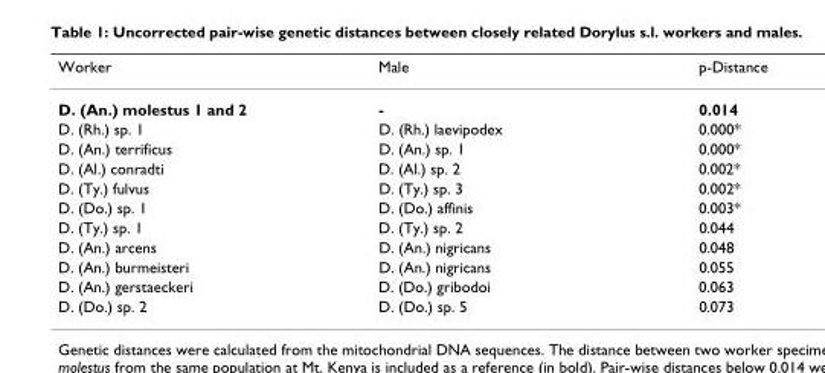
<table><thead><tr><td>Worker</td><td>Male</td><td>p-Distance</td></tr></thead><tbody><tr><td>D. (An.) molestus 1 and 2</td><td>-</td><td>0.014</td></tr><tr><td>D. (Rh.) sp. 1</td><td>D. (Rh.) laevipodex</td><td>0.000*</td></tr><tr><td>D. (An.) terrificus</td><td>D. (An.) sp. 1</td><td>0.000*</td></tr><tr><td>D. (Al.) conradti</td><td>D. (Al.) sp. 2</td><td>0.002*</td></tr><tr><td>D. (Ty.) fulvus</td><td>D. (Ty.) sp. 3</td><td>0.002*</td></tr><tr><td>D. (Do.) sp. 1</td><td>D. (Do.) affinis</td><td>0.003*</td></tr><tr><td>D. (Ty.) sp. 1</td><td>D. (Ty.) sp. 2</td><td>0.044</td></tr><tr><td>D. (An.) arcens</td><td>D. (An.) nigricans</td><td>0.048</td></tr><tr><td>D. (An.) burmeisteri</td><td>D. (An.) nigricans</td><td>0.055</td></tr><tr><td>D. (An.) gerstaeckeri</td><td>D. (Do.) gribodoi</td><td>0.063</td></tr><tr><td>D. (Do.) sp. 2</td><td>D. (Do.) sp. 5</td><td>0.073</td></tr></tbody></table>